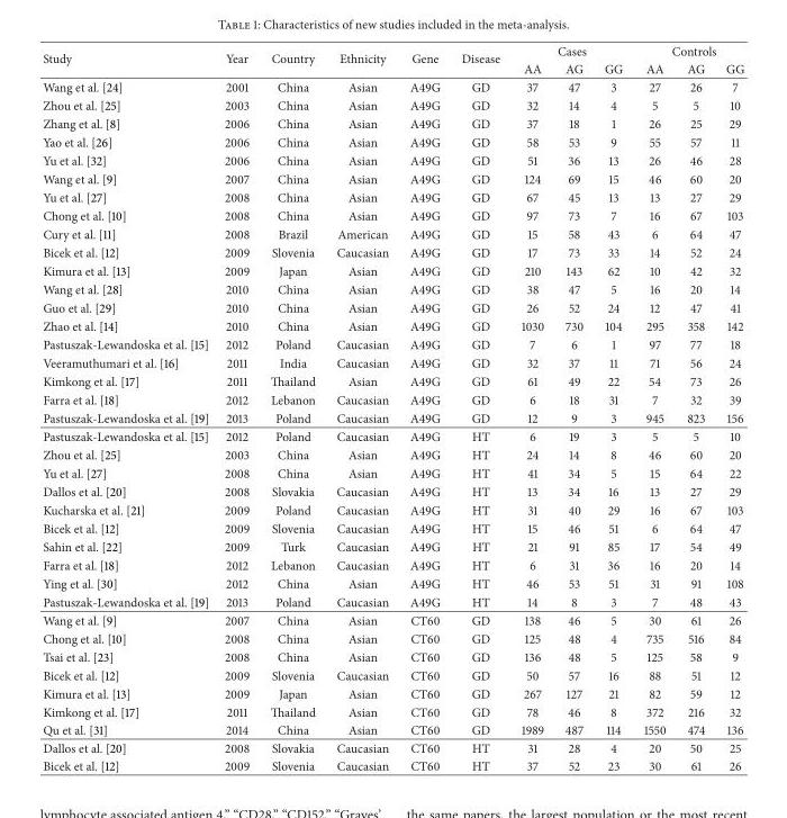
<table><thead><tr><td rowspan="2">Study</td><td rowspan="2">Year</td><td rowspan="2">Country</td><td rowspan="2">Ethnicity</td><td rowspan="2">Gene</td><td rowspan="2">Disease</td><td colspan="3">Cases</td><td colspan="3">Controls</td></tr><tr><td>AA</td><td>AG</td><td>GG</td><td>AA</td><td>AG</td><td>GG</td></tr></thead><tbody><tr><td>Wang et al. [24]</td><td>2001</td><td>China</td><td>Asian</td><td>A49G</td><td>GD</td><td>37</td><td>47</td><td>3</td><td>27</td><td>26</td><td>7</td></tr><tr><td>Zhou et al. [25]</td><td>2003</td><td>China</td><td>Asian</td><td>A49G</td><td>GD</td><td>32</td><td>14</td><td>4</td><td>5</td><td>5</td><td>10</td></tr><tr><td>Zhang et al. [8]</td><td>2006</td><td>China</td><td>Asian</td><td>A49G</td><td>GD</td><td>37</td><td>18</td><td>1</td><td>26</td><td>25</td><td>29</td></tr><tr><td>Yao et al. [26]</td><td>2006</td><td>China</td><td>Asian</td><td>A49G</td><td>GD</td><td>58</td><td>53</td><td>9</td><td>55</td><td>57</td><td>11</td></tr><tr><td>Yu et al. [32]</td><td>2006</td><td>China</td><td>Asian</td><td>A49G</td><td>GD</td><td>51</td><td>36</td><td>13</td><td>26</td><td>46</td><td>28</td></tr><tr><td>Wang et al. [9]</td><td>2007</td><td>China</td><td>Asian</td><td>A49G</td><td>GD</td><td>124</td><td>69</td><td>15</td><td>46</td><td>60</td><td>20</td></tr><tr><td>Yu et al. [27]</td><td>2008</td><td>China</td><td>Asian</td><td>A49G</td><td>GD</td><td>67</td><td>45</td><td>13</td><td>13</td><td>27</td><td>29</td></tr><tr><td>Chong et al. [10]</td><td>2008</td><td>China</td><td>Asian</td><td>A49G</td><td>GD</td><td>97</td><td>73</td><td>7</td><td>16</td><td>67</td><td>103</td></tr><tr><td>Cury et al. [11]</td><td>2008</td><td>Brazil</td><td>American</td><td>A49G</td><td>GD</td><td>15</td><td>58</td><td>43</td><td>6</td><td>64</td><td>47</td></tr><tr><td>Bicek et al. [12]</td><td>2009</td><td>Slovenia</td><td>Caucasian</td><td>A49G</td><td>GD</td><td>17</td><td>73</td><td>33</td><td>14</td><td>52</td><td>24</td></tr><tr><td>Kimura et al. [13]</td><td>2009</td><td>Japan</td><td>Asian</td><td>A49G</td><td>GD</td><td>210</td><td>143</td><td>62</td><td>10</td><td>42</td><td>32</td></tr><tr><td>Wang et al. [28]</td><td>2010</td><td>China</td><td>Asian</td><td>A49G</td><td>GD</td><td>38</td><td>47</td><td>5</td><td>16</td><td>20</td><td>14</td></tr><tr><td>Guo et al. [29]</td><td>2010</td><td>China</td><td>Asian</td><td>A49G</td><td>GD</td><td>26</td><td>52</td><td>24</td><td>12</td><td>47</td><td>41</td></tr><tr><td>Zhao et al. [14]</td><td>2010</td><td>China</td><td>Asian</td><td>A49G</td><td>GD</td><td>1030</td><td>730</td><td>104</td><td>295</td><td>358</td><td>142</td></tr><tr><td>Pastuszak-Lewandoska et al. [15]</td><td>2012</td><td>Poland</td><td>Caucasian</td><td>A49G</td><td>GD</td><td>7</td><td>6</td><td>1</td><td>97</td><td>77</td><td>18</td></tr><tr><td>Veeramuthumari et al. [16]</td><td>2011</td><td>India</td><td>Caucasian</td><td>A49G</td><td>GD</td><td>32</td><td>37</td><td>11</td><td>71</td><td>56</td><td>24</td></tr><tr><td>Kimkong et al. [17]</td><td>2011</td><td>Thailand</td><td>Asian</td><td>A49G</td><td>GD</td><td>61</td><td>49</td><td>22</td><td>54</td><td>73</td><td>26</td></tr><tr><td>Farra et al. [18]</td><td>2012</td><td>Lebanon</td><td>Caucasian</td><td>A49G</td><td>GD</td><td>6</td><td>18</td><td>31</td><td>7</td><td>32</td><td>39</td></tr><tr><td>Pastuszak-Lewandoska et al. [19]</td><td>2013</td><td>Poland</td><td>Caucasian</td><td>A49G</td><td>GD</td><td>12</td><td>9</td><td>3</td><td>945</td><td>823</td><td>156</td></tr><tr><td>Pastuszak-Lewandoska et al. [15]</td><td>2012</td><td>Poland</td><td>Caucasian</td><td>A49G</td><td>HT</td><td>6</td><td>19</td><td>3</td><td>5</td><td>5</td><td>10</td></tr><tr><td>Zhou et al. [25]</td><td>2003</td><td>China</td><td>Asian</td><td>A49G</td><td>HT</td><td>24</td><td>14</td><td>8</td><td>46</td><td>60</td><td>20</td></tr><tr><td>Yu et al. [27]</td><td>2008</td><td>China</td><td>Asian</td><td>A49G</td><td>HT</td><td>41</td><td>34</td><td>5</td><td>15</td><td>64</td><td>22</td></tr><tr><td>Dallos et al. [20]</td><td>2008</td><td>Slovakia</td><td>Caucasian</td><td>A49G</td><td>HT</td><td>13</td><td>34</td><td>16</td><td>13</td><td>27</td><td>29</td></tr><tr><td>Kucharska et al. [21]</td><td>2009</td><td>Poland</td><td>Caucasian</td><td>A49G</td><td>HT</td><td>31</td><td>40</td><td>29</td><td>16</td><td>67</td><td>103</td></tr><tr><td>Bicek et al. [12]</td><td>2009</td><td>Slovenia</td><td>Caucasian</td><td>A49G</td><td>HT</td><td>15</td><td>46</td><td>51</td><td>6</td><td>64</td><td>47</td></tr><tr><td>Sahin et al. [22]</td><td>2009</td><td>Turk</td><td>Caucasian</td><td>A49G</td><td>HT</td><td>21</td><td>91</td><td>85</td><td>17</td><td>54</td><td>49</td></tr><tr><td>Farra et al. [18]</td><td>2012</td><td>Lebanon</td><td>Caucasian</td><td>A49G</td><td>HT</td><td>6</td><td>31</td><td>36</td><td>16</td><td>20</td><td>14</td></tr><tr><td>Ying et al. [30]</td><td>2012</td><td>China</td><td>Asian</td><td>A49G</td><td>HT</td><td>46</td><td>53</td><td>51</td><td>31</td><td>91</td><td>108</td></tr><tr><td>Pastuszak-Lewandoska et al. [19]</td><td>2013</td><td>Poland</td><td>Caucasian</td><td>A49G</td><td>HT</td><td>14</td><td>8</td><td>3</td><td>7</td><td>48</td><td>43</td></tr><tr><td>Wang et al. [9]</td><td>2007</td><td>China</td><td>Asian</td><td>CT60</td><td>GD</td><td>138</td><td>46</td><td>5</td><td>30</td><td>61</td><td>26</td></tr><tr><td>Chong et al. [10]</td><td>2008</td><td>China</td><td>Asian</td><td>CT60</td><td>GD</td><td>125</td><td>48</td><td>4</td><td>735</td><td>516</td><td>84</td></tr><tr><td>Tsai et al. [23]</td><td>2008</td><td>China</td><td>Asian</td><td>CT60</td><td>GD</td><td>136</td><td>48</td><td>5</td><td>125</td><td>58</td><td>9</td></tr><tr><td>Bicek et al. [12]</td><td>2009</td><td>Slovenia</td><td>Caucasian</td><td>CT60</td><td>GD</td><td>50</td><td>57</td><td>16</td><td>88</td><td>51</td><td>12</td></tr><tr><td>Kimura et al. [13]</td><td>2009</td><td>Japan</td><td>Asian</td><td>CT60</td><td>GD</td><td>267</td><td>127</td><td>21</td><td>82</td><td>59</td><td>12</td></tr><tr><td>Kimkong et al. [17]</td><td>2011</td><td>Thailand</td><td>Asian</td><td>CT60</td><td>GD</td><td>78</td><td>46</td><td>8</td><td>372</td><td>216</td><td>32</td></tr><tr><td>Qu et al. [31]</td><td>2014</td><td>China</td><td>Asian</td><td>CT60</td><td>GD</td><td>1989</td><td>487</td><td>114</td><td>1550</td><td>474</td><td>136</td></tr><tr><td>Dallos et al. [20]</td><td>2008</td><td>Slovakia</td><td>Caucasian</td><td>CT60</td><td>HT</td><td>31</td><td>28</td><td>4</td><td>20</td><td>50</td><td>25</td></tr><tr><td>Bicek et al. [12]</td><td>2009</td><td>Slovenia</td><td>Caucasian</td><td>CT60</td><td>HT</td><td>37</td><td>52</td><td>23</td><td>30</td><td>61</td><td>26</td></tr></tbody></table>